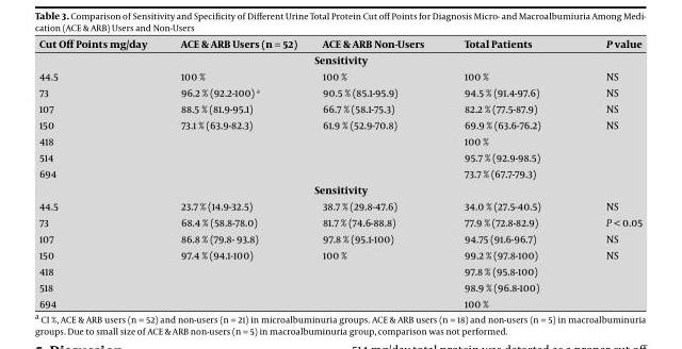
<table><thead><tr><td>Cut Off Points mg/day</td><td>ACE &amp; ARB Users (n = 52)</td><td>ACE &amp; ARB Non-Users</td><td>Total Patients</td><td>P value</td></tr></thead><tbody><tr><td colspan="5">Sensitivity</td></tr><tr><td>44.5</td><td>100 %</td><td>100 %</td><td>100 %</td><td>NS</td></tr><tr><td>73</td><td>96.2 % (92.2-100) a</td><td>90.5 % (85.1-95.9)</td><td>94.5 % (91.4-97.6)</td><td>NS</td></tr><tr><td>107</td><td>88.5 % (81.9-95.1)</td><td>66.7 % (58.1-75.3)</td><td>82.2 % (77.5-87.9)</td><td>NS</td></tr><tr><td>150</td><td>73.1 % (63.9-82.3)</td><td>61.9 % (52.9-70.8)</td><td>69.9 % (63.6-76.2)</td><td>NS</td></tr><tr><td>418</td><td></td><td></td><td>100 %</td><td></td></tr><tr><td>514</td><td></td><td></td><td>95.7 % (92.9-98.5)</td><td></td></tr><tr><td>694</td><td></td><td></td><td>73.7 % (67.7-79.3)</td><td></td></tr><tr><td colspan="5">Sensitivity</td></tr><tr><td>44.5</td><td>23.7 % (14.9-32.5)</td><td>38.7 % (29.8-47.6)</td><td>34.0 % (27.5-40.5)</td><td>NS</td></tr><tr><td>73</td><td>68.4 % (58.8-78.0)</td><td>81.7 % (74.6-88.8)</td><td>77.9 % (72.8-82.9)</td><td>P &lt; 0.05</td></tr><tr><td>107</td><td>86.8 % (79.8- 93.8)</td><td>97.8 % (95.1-100)</td><td>94.75 (91.6-96.7)</td><td>NS</td></tr><tr><td>150</td><td>97.4 % (94.1-100)</td><td>100 %</td><td>99.2 % (97.8-100)</td><td>NS</td></tr><tr><td>418</td><td></td><td></td><td>97.8 % (95.8-100)</td><td></td></tr><tr><td>518</td><td></td><td></td><td>98.9 % (96.8-100)</td><td></td></tr><tr><td>694</td><td></td><td></td><td>100 %</td><td></td></tr></tbody></table>